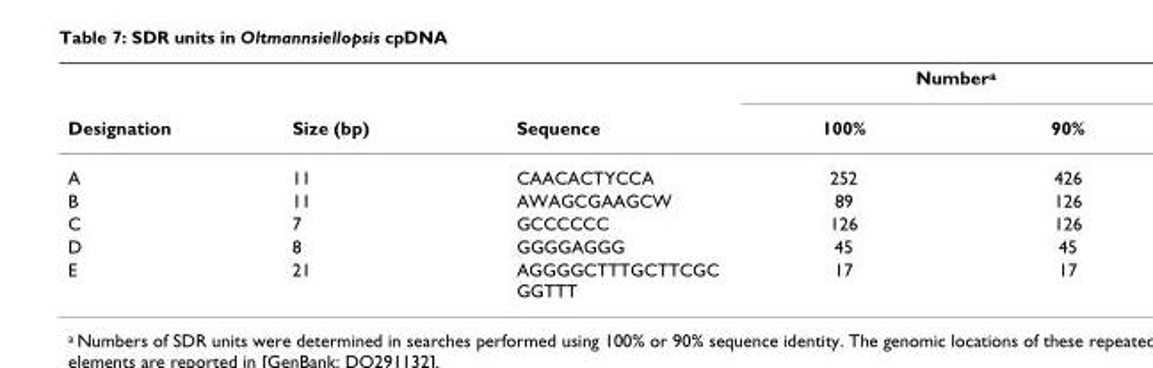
<table><thead><tr><td rowspan="2">Designation</td><td rowspan="2">Size (bp)</td><td rowspan="2">Sequence</td><td colspan="2">Numbera</td></tr><tr><td>100%</td><td>90%</td></tr></thead><tbody><tr><td>A</td><td>11</td><td>CAACACTYCCA</td><td>252</td><td>426</td></tr><tr><td>B</td><td>11</td><td>AWAGCGAAGCW</td><td>89</td><td>126</td></tr><tr><td>C</td><td>7</td><td>GCCCCCC</td><td>126</td><td>126</td></tr><tr><td>D</td><td>8</td><td>GGGGAGGG</td><td>45</td><td>45</td></tr><tr><td>E</td><td>21</td><td>AGGGGCTTTGCTTCGC GGTTT</td><td>17</td><td>17</td></tr></tbody></table>